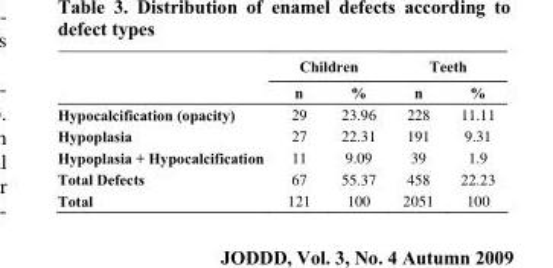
<table><thead><tr><td rowspan="2"></td><td colspan="2">Children</td><td colspan="2">Teeth</td></tr><tr><td>n</td><td>%</td><td>n</td><td>%</td></tr></thead><tbody><tr><td>Hypocalcification (opacity)</td><td>29</td><td>23.96</td><td>228</td><td>11.11</td></tr><tr><td>Hypoplasia</td><td>27</td><td>22.31</td><td>191</td><td>9.31</td></tr><tr><td>Hypoplasia + Hypocalcification</td><td>11</td><td>9.09</td><td>39</td><td>1.9</td></tr><tr><td>Total Defects</td><td>67</td><td>55.37</td><td>458</td><td>22.23</td></tr><tr><td>Total</td><td>121</td><td>100</td><td>2051</td><td>100</td></tr></tbody></table>